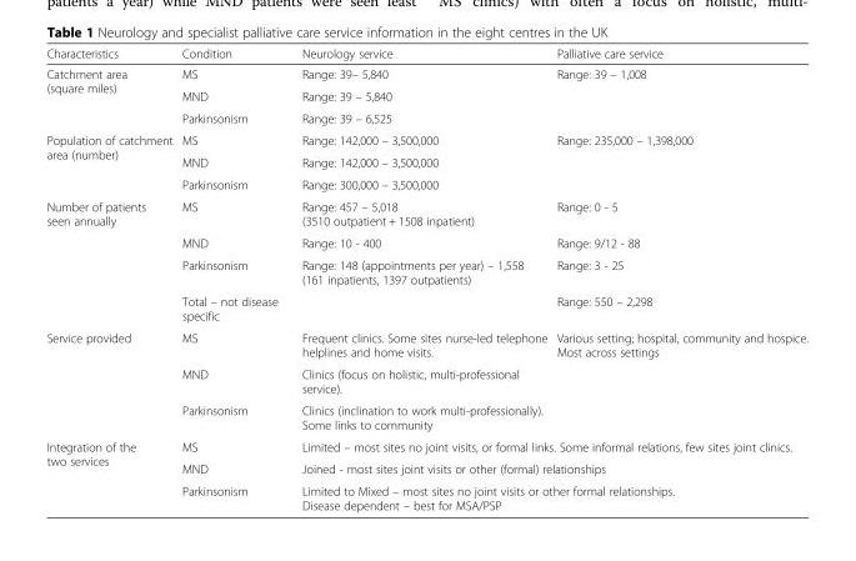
<table><thead><tr><td>Characteristics</td><td>Condition</td><td>Neurology service</td><td>Palliative care service</td></tr></thead><tbody><tr><td rowspan="3">Catchment area (square miles)</td><td>MS</td><td>Range: 39– 5,840</td><td rowspan="3">Range: 39 – 1,008</td></tr><tr><td>MND</td><td>Range: 39 – 5,840</td></tr><tr><td>Parkinsonism</td><td>Range: 39 – 6,525</td></tr><tr><td rowspan="3">Population of catchment area (number)</td><td>MS</td><td>Range: 142,000 – 3,500,000</td><td rowspan="3">Range: 235,000 – 1,398,000</td></tr><tr><td>MND</td><td>Range: 142,000 – 3,500,000</td></tr><tr><td>Parkinsonism</td><td>Range: 300,000 – 3,500,000</td></tr><tr><td rowspan="4">Number of patients seen annually</td><td>MS</td><td>Range: 457 – 5,018 (3510 outpatient + 1508 inpatient)</td><td>Range: 0 - 5</td></tr><tr><td>MND</td><td>Range: 10 - 400</td><td>Range: 9/12 - 88</td></tr><tr><td>Parkinsonism</td><td>Range: 148 (appointments per year) – 1,558 (161 inpatients, 1397 outpatients)</td><td>Range: 3 - 25</td></tr><tr><td>Total – not disease specific</td><td></td><td>Range: 550 – 2,298</td></tr><tr><td rowspan="3">Service provided</td><td>MS</td><td>Frequent clinics. Some sites nurse-led telephone helplines and home visits.</td><td rowspan="3">Various setting; hospital, community and hospice. Most across settings</td></tr><tr><td>MND</td><td>Clinics (focus on holistic, multi-professional service).</td></tr><tr><td>Parkinsonism</td><td>Clinics (inclination to work multi-professionally). Some links to community</td></tr><tr><td rowspan="3">Integration of the two services</td><td>MS</td><td colspan="2">Limited – most sites no joint visits, or formal links. Some informal relations, few sites joint clinics.</td></tr><tr><td>MND</td><td colspan="2">Joined - most sites joint visits or other (formal) relationships</td></tr><tr><td>Parkinsonism</td><td colspan="2">Limited to Mixed – most sites no joint visits or other formal relationships. Disease dependent – best for MSA/PSP</td></tr></tbody></table>